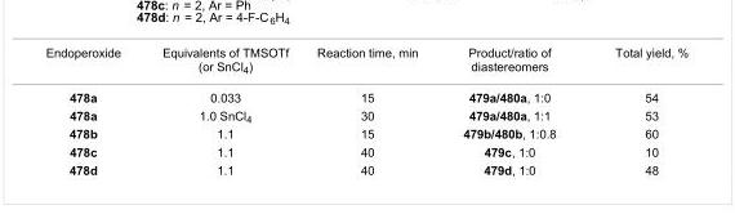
<table><tbody><tr><td>Endoperoxide</td><td>Equivalents of TMSOTf (or SnCl<sub>4</sub>)</td><td>Reaction time, min</td><td>Product/ratio of diastereomers</td><td>Total yield, %</td></tr><tr><td>478a</td><td>0.033</td><td>15</td><td>479a/480a, 1:0</td><td>54</td></tr><tr><td>478a</td><td>1.0 SnCl<sub>4</sub></td><td>30</td><td>479a/480a, 1:1</td><td>53</td></tr><tr><td>478b</td><td>1.1</td><td>15</td><td>479b/480b, 1:0.8</td><td>60</td></tr><tr><td>478c</td><td>1.1</td><td>40</td><td>479c, 1:0</td><td>10</td></tr><tr><td>478d</td><td>1.1</td><td>40</td><td>479d, 1:0</td><td>48</td></tr></tbody></table>